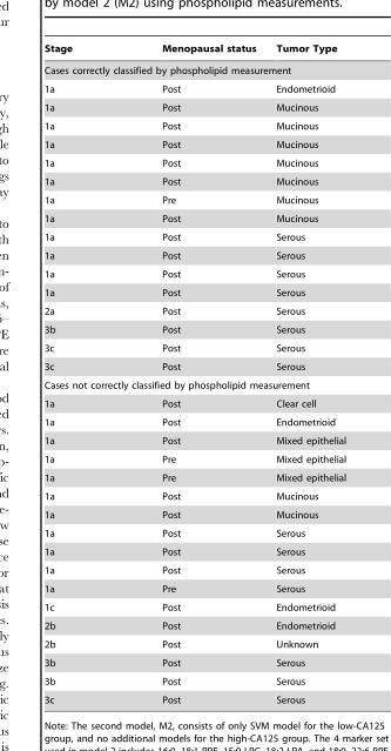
<table><thead><tr><td>Stage</td><td>Menopausal status</td><td>Tumor Type</td></tr></thead><tbody><tr><td colspan="3">Cases correctly classified by phospholipid measurement</td></tr><tr><td>1a</td><td>Post</td><td>Endometrioid</td></tr><tr><td>1a</td><td>Post</td><td>Mucinous</td></tr><tr><td>1a</td><td>Post</td><td>Mucinous</td></tr><tr><td>1a</td><td>Post</td><td>Mucinous</td></tr><tr><td>1a</td><td>Post</td><td>Mucinous</td></tr><tr><td>1a</td><td>Post</td><td>Mucinous</td></tr><tr><td>1a</td><td>Pre</td><td>Mucinous</td></tr><tr><td>1a</td><td>Post</td><td>Mucinous</td></tr><tr><td>1a</td><td>Post</td><td>Serous</td></tr><tr><td>1a</td><td>Post</td><td>Serous</td></tr><tr><td>1a</td><td>Post</td><td>Serous</td></tr><tr><td>1a</td><td>Post</td><td>Serous</td></tr><tr><td>2a</td><td>Post</td><td>Serous</td></tr><tr><td>3b</td><td>Post</td><td>Serous</td></tr><tr><td>3c</td><td>Post</td><td>Serous</td></tr><tr><td>3c</td><td>Post</td><td>Serous</td></tr><tr><td colspan="3">Cases not correctly classified by phospholipid measurement</td></tr><tr><td>1a</td><td>Post</td><td>Clear cell</td></tr><tr><td>1a</td><td>Post</td><td>Endometrioid</td></tr><tr><td>1a</td><td>Post</td><td>Mixed epithelial</td></tr><tr><td>1a</td><td>Pre</td><td>Mixed epithelial</td></tr><tr><td>1a</td><td>Pre</td><td>Mixed epithelial</td></tr><tr><td>1a</td><td>Post</td><td>Mucinous</td></tr><tr><td>1a</td><td>Post</td><td>Mucinous</td></tr><tr><td>1a</td><td>Post</td><td>Serous</td></tr><tr><td>1a</td><td>Post</td><td>Serous</td></tr><tr><td>1a</td><td>Post</td><td>Serous</td></tr><tr><td>1a</td><td>Pre</td><td>Serous</td></tr><tr><td>1c</td><td>Post</td><td>Endometrioid</td></tr><tr><td>2b</td><td>Post</td><td>Endometrioid</td></tr><tr><td>2b</td><td>Post</td><td>Unknown</td></tr><tr><td>3b</td><td>Post</td><td>Serous</td></tr><tr><td>3b</td><td>Post</td><td>Serous</td></tr><tr><td>3c</td><td>Post</td><td>Serous</td></tr></tbody></table>